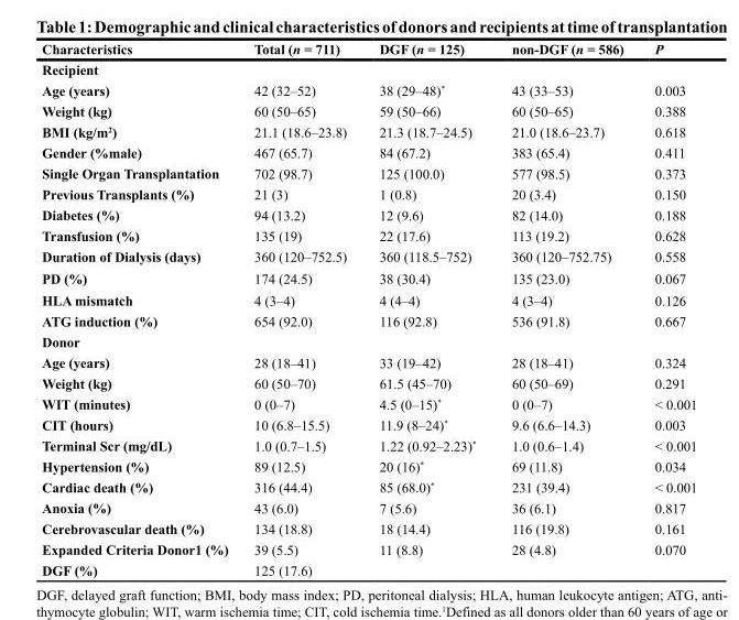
<table><thead><tr><td>Characteristics</td><td>Total (n = 711)</td><td>DGF (n = 125)</td><td>non-DGF (n = 586)</td><td>P</td></tr></thead><tbody><tr><td colspan="5">Recipient</td></tr><tr><td>Age (years)</td><td>42 (32–52)</td><td>38 (29–48)*</td><td>43 (33–53)</td><td>0.003</td></tr><tr><td>Weight (kg)</td><td>60 (50–65)</td><td>59 (50–66)</td><td>60 (50–65)</td><td>0.388</td></tr><tr><td>BMI (kg/m<sup>2</sup>)</td><td>21.1 (18.6–23.8)</td><td>21.3 (18.7–24.5)</td><td>21.0 (18.6–23.7)</td><td>0.618</td></tr><tr><td>Gender (%male)</td><td>467 (65.7)</td><td>84 (67.2)</td><td>383 (65.4)</td><td>0.411</td></tr><tr><td>Single Organ Transplantation</td><td>702 (98.7)</td><td>125 (100.0)</td><td>577 (98.5)</td><td>0.373</td></tr><tr><td>Previous Transplants (%)</td><td>21 (3)</td><td>1 (0.8)</td><td>20 (3.4)</td><td>0.150</td></tr><tr><td>Diabetes (%)</td><td>94 (13.2)</td><td>12 (9.6)</td><td>82 (14.0)</td><td>0.188</td></tr><tr><td>Transfusion (%)</td><td>135 (19)</td><td>22 (17.6)</td><td>113 (19.2)</td><td>0.628</td></tr><tr><td>Duration of Dialysis (days)</td><td>360 (120–752.5)</td><td>360 (118.5–752)</td><td>360 (120–752.75)</td><td>0.558</td></tr><tr><td>PD (%)</td><td>174 (24.5)</td><td>38 (30.4)</td><td>135 (23.0)</td><td>0.067</td></tr><tr><td>HLA mismatch</td><td>4 (3–4)</td><td>4 (4–4)</td><td>4 (3–4)</td><td>0.126</td></tr><tr><td>ATG induction (%)</td><td>654 (92.0)</td><td>116 (92.8)</td><td>536 (91.8)</td><td>0.667</td></tr><tr><td colspan="5">Donor</td></tr><tr><td>Age (years)</td><td>28 (18–41)</td><td>33 (19–42)</td><td>28 (18–41)</td><td>0.324</td></tr><tr><td>Weight (kg)</td><td>60 (50–70)</td><td>61.5 (45–70)</td><td>60 (50–69)</td><td>0.291</td></tr><tr><td>WIT (minutes)</td><td>0 (0–7)</td><td>4.5 (0–15)*</td><td>0 (0–7)</td><td>&lt; 0.001</td></tr><tr><td>CIT (hours)</td><td>10 (6.8–15.5)</td><td>11.9 (8–24)*</td><td>9.6 (6.6–14.3)</td><td>0.003</td></tr><tr><td>Terminal Scr (mg/dL)</td><td>1.0 (0.7–1.5)</td><td>1.22 (0.92–2.23)*</td><td>1.0 (0.6–1.4)</td><td>&lt; 0.001</td></tr><tr><td>Hypertension (%)</td><td>89 (12.5)</td><td>20 (16)*</td><td>69 (11.8)</td><td>0.034</td></tr><tr><td>Cardiac death (%)</td><td>316 (44.4)</td><td>85 (68.0)*</td><td>231 (39.4)</td><td>&lt; 0.001</td></tr><tr><td>Anoxia (%)</td><td>43 (6.0)</td><td>7 (5.6)</td><td>36 (6.1)</td><td>0.817</td></tr><tr><td>Cerebrovascular death (%)</td><td>134 (18.8)</td><td>18 (14.4)</td><td>116 (19.8)</td><td>0.161</td></tr><tr><td>Expanded Criteria Donor1 (%)</td><td>39 (5.5)</td><td>11 (8.8)</td><td>28 (4.8)</td><td>0.070</td></tr><tr><td>DGF (%)</td><td>125 (17.6)</td><td></td><td></td><td></td></tr></tbody></table>